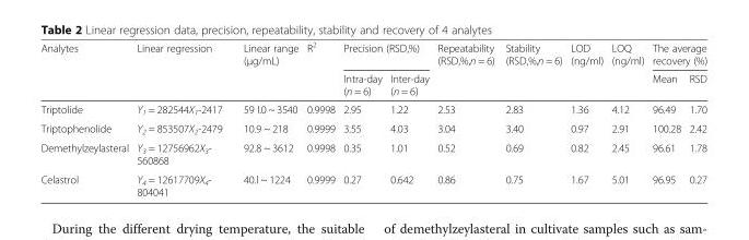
<table><thead><tr><td rowspan="2">Analytes</td><td rowspan="2">Linear regression</td><td rowspan="2">Linear range (μg/mL)</td><td rowspan="2">R<sup>2</sup></td><td colspan="2">Precision (RSD,%)</td><td rowspan="2">Repeatability (RSD,%,n = 6)</td><td rowspan="2">Stability (RSD,%,n = 6)</td><td rowspan="2">LOD (ng/ml)</td><td rowspan="2">LOQ (ng/ml)</td><td colspan="2">The average recovery (%)</td></tr><tr><td>Intra-day (n = 6)</td><td>Inter-day (n = 6)</td><td>Mean</td><td>RSD</td></tr></thead><tbody><tr><td>Triptolide</td><td>Y<sub>1</sub> = 282544X<sub>1</sub>-2417</td><td>59 l.0 ~ 3540</td><td>0.9998</td><td>2.95</td><td>1.22</td><td>2.53</td><td>2.83</td><td>1.36</td><td>4.12</td><td>96.49</td><td>1.70</td></tr><tr><td>Triptophenolide</td><td>Y<sub>2</sub> = 853507X<sub>2</sub>-2479</td><td>10.9 ~ 218</td><td>0.9999</td><td>3.55</td><td>4.03</td><td>3.04</td><td>3.40</td><td>0.97</td><td>2.91</td><td>100.28</td><td>2.42</td></tr><tr><td>Demethylzeylasteral</td><td>Y<sub>3</sub> = 12756962X<sub>3</sub>- 560868</td><td>92.8 ~ 3612</td><td>0.9998</td><td>0.35</td><td>1.01</td><td>0.52</td><td>0.69</td><td>0.82</td><td>2.45</td><td>96.61</td><td>1.78</td></tr><tr><td>Celastrol</td><td>Y<sub>4</sub> = 12617709X<sub>4</sub>- 804041</td><td>40.l ~ 1224</td><td>0.9999</td><td>0.27</td><td>0.642</td><td>0.86</td><td>0.75</td><td>1.67</td><td>5.01</td><td>96.95</td><td>0.27</td></tr></tbody></table>